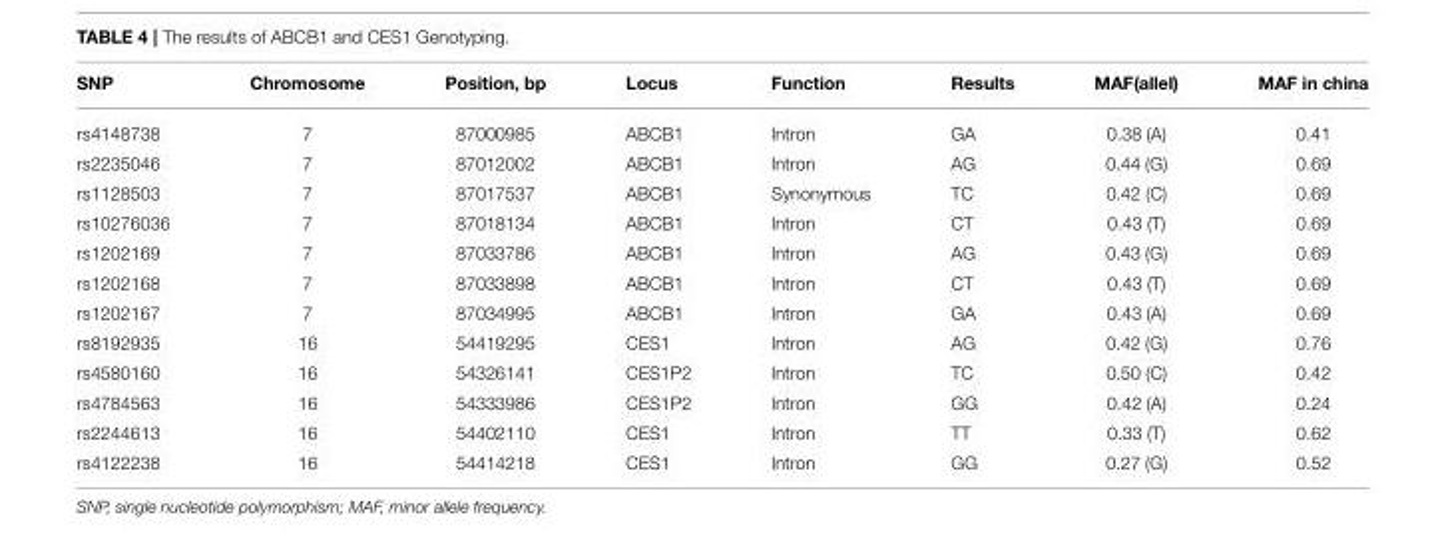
<table><thead><tr><td>SNP</td><td>Chromosome</td><td>Position, bp</td><td>Locus</td><td>Function</td><td>Results</td><td>MAF(allel)</td><td>MAF in china</td></tr></thead><tbody><tr><td>rs4148738</td><td>7</td><td>87000985</td><td>ABCB1</td><td>Intron</td><td>GA</td><td>0.38 (A)</td><td>0.41</td></tr><tr><td>rs2235046</td><td>7</td><td>87012002</td><td>ABCB1</td><td>Intron</td><td>AG</td><td>0.44 (G)</td><td>0.69</td></tr><tr><td>rs1128503</td><td>7</td><td>87017537</td><td>ABCB1</td><td>Synonymous</td><td>TC</td><td>0.42 (C)</td><td>0.69</td></tr><tr><td>rs10276036</td><td>7</td><td>87018134</td><td>ABCB1</td><td>Intron</td><td>CT</td><td>0.43 (T)</td><td>0.69</td></tr><tr><td>rs1202169</td><td>7</td><td>87033786</td><td>ABCB1</td><td>Intron</td><td>AG</td><td>0.43 (G)</td><td>0.69</td></tr><tr><td>rs1202168</td><td>7</td><td>87033898</td><td>ABCB1</td><td>Intron</td><td>CT</td><td>0.43 (T)</td><td>0.69</td></tr><tr><td>rs1202167</td><td>7</td><td>87034995</td><td>ABCB1</td><td>Intron</td><td>GA</td><td>0.43 (A)</td><td>0.69</td></tr><tr><td>rs8192935</td><td>16</td><td>54419295</td><td>CES1</td><td>Intron</td><td>AG</td><td>0.42 (G)</td><td>0.76</td></tr><tr><td>rs4580160</td><td>16</td><td>54326141</td><td>CES1P2</td><td>Intron</td><td>TC</td><td>0.50 (C)</td><td>0.42</td></tr><tr><td>rs4784563</td><td>16</td><td>54333986</td><td>CES1P2</td><td>Intron</td><td>GG</td><td>0.42 (A)</td><td>0.24</td></tr><tr><td>rs2244613</td><td>16</td><td>54402110</td><td>CES1</td><td>Intron</td><td>TT</td><td>0.33 (T)</td><td>0.62</td></tr><tr><td>rs4122238</td><td>16</td><td>54414218</td><td>CES1</td><td>Intron</td><td>GG</td><td>0.27 (G)</td><td>0.52</td></tr></tbody></table>